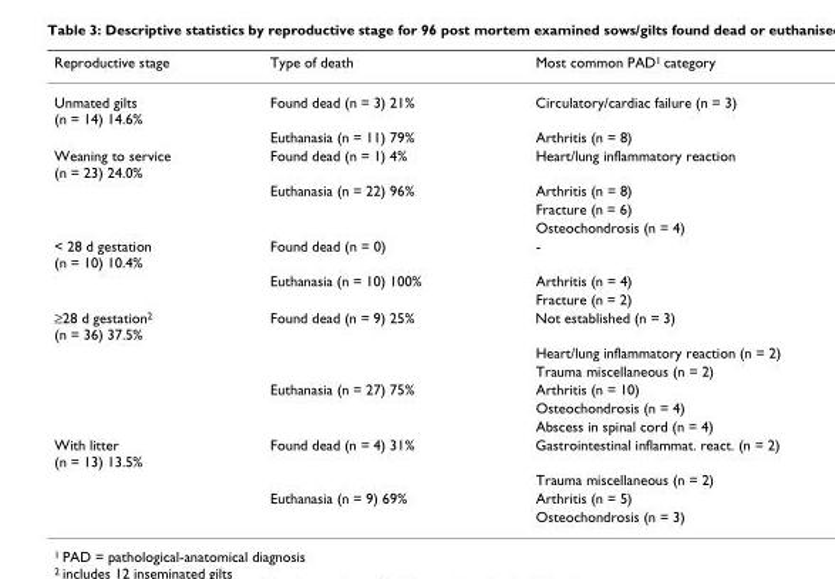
<table><thead><tr><td>Reproductive stage</td><td>Type of death</td><td>Most common PAD<sup>1</sup> category</td></tr></thead><tbody><tr><td rowspan="2">Unmated gilts (n = 14) 14.6%</td><td>Found dead (n = 3) 21%</td><td>Circulatory/cardiac failure (n = 3)</td></tr><tr><td>Euthanasia (n = 11) 79%</td><td>Arthritis (n = 8)</td></tr><tr><td rowspan="4">Weaning to service (n = 23) 24.0%</td><td>Found dead (n = 1) 4%</td><td>Heart/lung inflammatory reaction</td></tr><tr><td>Euthanasia (n = 22) 96%</td><td>Arthritis (n = 8)</td></tr><tr><td></td><td>Fracture (n = 6)</td></tr><tr><td></td><td>Osteochondrosis (n = 4)</td></tr><tr><td rowspan="3">&lt; 28 d gestation (n = 10) 10.4%</td><td>Found dead (n = 0)</td><td>-</td></tr><tr><td>Euthanasia (n = 10) 100%</td><td>Arthritis (n = 4)</td></tr><tr><td></td><td>Fracture (n = 2)</td></tr><tr><td rowspan="6">≥28 d gestation<sup>2</sup> (n = 36) 37.5%</td><td>Found dead (n = 9) 25%</td><td>Not established (n = 3)</td></tr><tr><td></td><td>Heart/lung inflammatory reaction (n = 2)</td></tr><tr><td></td><td>Trauma miscellaneous (n = 2)</td></tr><tr><td>Euthanasia (n = 27) 75%</td><td>Arthritis (n = 10)</td></tr><tr><td></td><td>Osteochondrosis (n = 4)</td></tr><tr><td></td><td>Abscess in spinal cord (n = 4)</td></tr><tr><td rowspan="4">With litter (n = 13) 13.5%</td><td>Found dead (n = 4) 31%</td><td>Gastrointestinal inflammat. react. (n = 2)</td></tr><tr><td></td><td>Trauma miscellaneous (n = 2)</td></tr><tr><td>Euthanasia (n = 9) 69%</td><td>Arthritis (n = 5)</td></tr><tr><td></td><td>Osteochondrosis (n = 3)</td></tr></tbody></table>